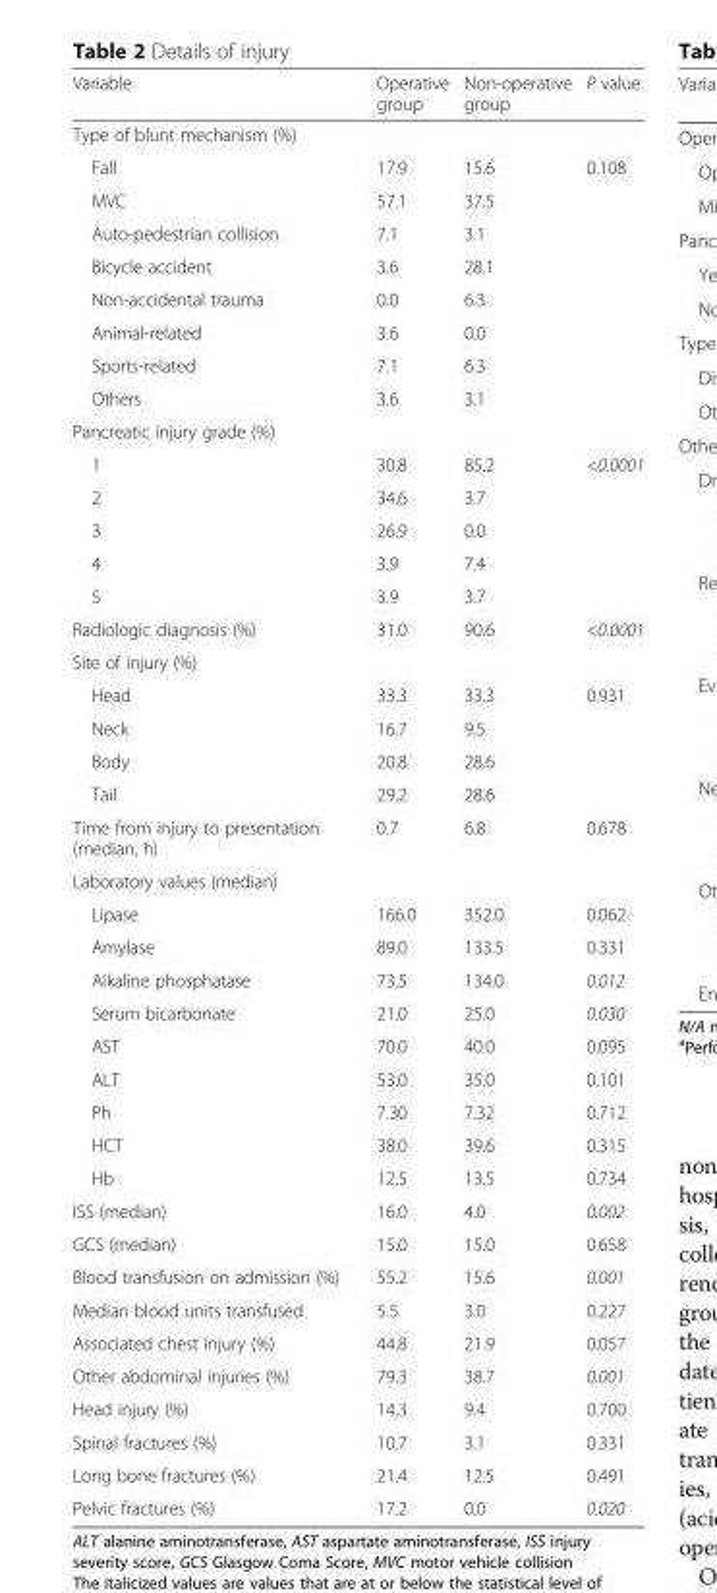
<table><thead><tr><td>Variable</td><td>Operative group</td><td>Non-operative group</td><td>P value</td></tr></thead><tbody><tr><td colspan="4">Type of blunt mechanism (%)</td></tr><tr><td>Fall</td><td>17.9</td><td>15.6</td><td>0.108</td></tr><tr><td>MVC</td><td>57.1</td><td>37.5</td><td></td></tr><tr><td>Auto-pedestrian collision</td><td>7.1</td><td>3.1</td><td></td></tr><tr><td>Bicycle accident</td><td>3.6</td><td>28.1</td><td></td></tr><tr><td>Non-accidental trauma</td><td>0.0</td><td>6.3</td><td></td></tr><tr><td>Animal-related</td><td>3.6</td><td>0.0</td><td></td></tr><tr><td>Sports-related</td><td>7.1</td><td>6.3</td><td></td></tr><tr><td>Others</td><td>3.6</td><td>3.1</td><td></td></tr><tr><td colspan="4">Pancreatic injury grade (%)</td></tr><tr><td>1</td><td>30.8</td><td>85.2</td><td>&lt;0.0001</td></tr><tr><td>2</td><td>34.6</td><td>3.7</td><td></td></tr><tr><td>3</td><td>26.9</td><td>0.0</td><td></td></tr><tr><td>4</td><td>3.9</td><td>7.4</td><td></td></tr><tr><td>5</td><td>3.9</td><td>3.7</td><td></td></tr><tr><td>Radiologic diagnosis (%)</td><td>31.0</td><td>90.6</td><td>&lt;0.0001</td></tr><tr><td colspan="4">Site of injury (%)</td></tr><tr><td>Head</td><td>33.3</td><td>33.3</td><td>0.931</td></tr><tr><td>Neck</td><td>16.7</td><td>9.5</td><td></td></tr><tr><td>Body</td><td>20.8</td><td>28.6</td><td></td></tr><tr><td>Tail</td><td>29.2</td><td>28.6</td><td></td></tr><tr><td>Time from injury to presentation (median, h)</td><td>0.7</td><td>6.8</td><td>0.678</td></tr><tr><td colspan="4">Laboratory values (median)</td></tr><tr><td>Lipase</td><td>166.0</td><td>352.0</td><td>0.062</td></tr><tr><td>Amylase</td><td>89.0</td><td>133.5</td><td>0.331</td></tr><tr><td>Alkaline phosphatase</td><td>73.5</td><td>134.0</td><td>0.012</td></tr><tr><td>Serum bicarbonate</td><td>21.0</td><td>25.0</td><td>0.030</td></tr><tr><td>AST</td><td>70.0</td><td>40.0</td><td>0.095</td></tr><tr><td>ALT</td><td>53.0</td><td>35.0</td><td>0.101</td></tr><tr><td>Ph</td><td>7.30</td><td>7.32</td><td>0.712</td></tr><tr><td>HCT</td><td>38.0</td><td>39.6</td><td>0.315</td></tr><tr><td>Hb</td><td>12.5</td><td>13.5</td><td>0.734</td></tr><tr><td>ISS (median)</td><td>16.0</td><td>4.0</td><td>0.002</td></tr><tr><td>GCS (median)</td><td>15.0</td><td>15.0</td><td>0.658</td></tr><tr><td>Blood transfusion on admission (%)</td><td>55.2</td><td>15.6</td><td>0.001</td></tr><tr><td>Median blood units transfused</td><td>5.5</td><td>3.0</td><td>0.227</td></tr><tr><td>Associated chest injury (%)</td><td>44.8</td><td>21.9</td><td>0.057</td></tr><tr><td>Other abdominal injuries (%)</td><td>79.3</td><td>38.7</td><td>0.001</td></tr><tr><td>Head injury (%)</td><td>14.3</td><td>9.4</td><td>0.700</td></tr><tr><td>Spinal fractures (%)</td><td>10.7</td><td>3.1</td><td>0.331</td></tr><tr><td>Long bone fractures (%)</td><td>21.4</td><td>12.5</td><td>0.491</td></tr><tr><td>Pelvic fractures (%)</td><td>17.2</td><td>0.0</td><td>0.020</td></tr></tbody></table>